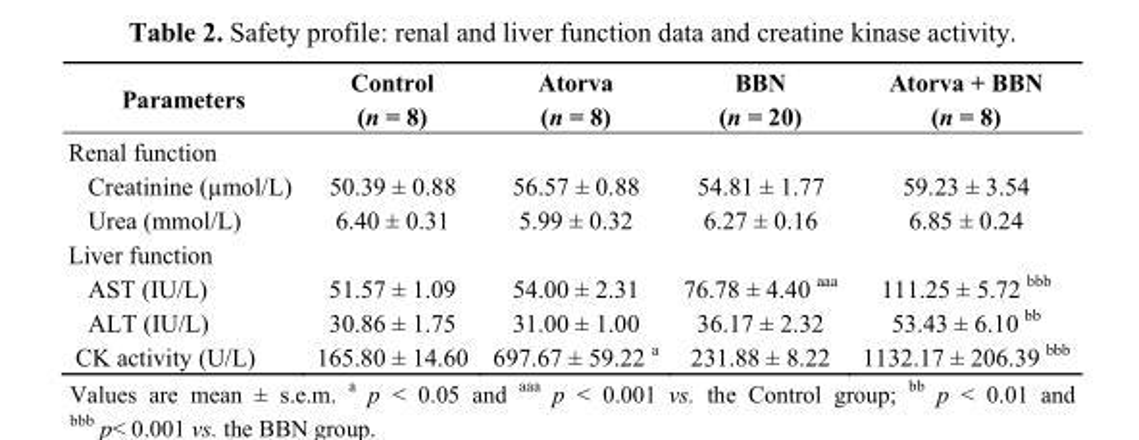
<table><thead><tr><td>Parameters</td><td>Control (n = 8)</td><td>Atorva (n = 8)</td><td>BBN (n = 20)</td><td>Atorva + BBN (n = 8)</td></tr></thead><tbody><tr><td colspan="5">Renal function</td></tr><tr><td>Creatinine (µmol/L)</td><td>50.39 ± 0.88</td><td>56.57 ± 0.88</td><td>54.81 ± 1.77</td><td>59.23 ± 3.54</td></tr><tr><td>Urea (mmol/L)</td><td>6.40 ± 0.31</td><td>5.99 ± 0.32</td><td>6.27 ± 0.16</td><td>6.85 ± 0.24</td></tr><tr><td colspan="5">Liver function</td></tr><tr><td>AST (IU/L)</td><td>51.57 ± 1.09</td><td>54.00 ± 2.31</td><td>76.78 ± 4.40 aaa</td><td>111.25 ± 5.72 bbb</td></tr><tr><td>ALT (IU/L)</td><td>30.86 ± 1.75</td><td>31.00 ± 1.00</td><td>36.17 ± 2.32</td><td>53.43 ± 6.10 bb</td></tr><tr><td>CK activity (U/L)</td><td>165.80 ± 14.60</td><td>697.67 ± 59.22 a</td><td>231.88 ± 8.22</td><td>1132.17 ± 206.39 bbb</td></tr></tbody></table>